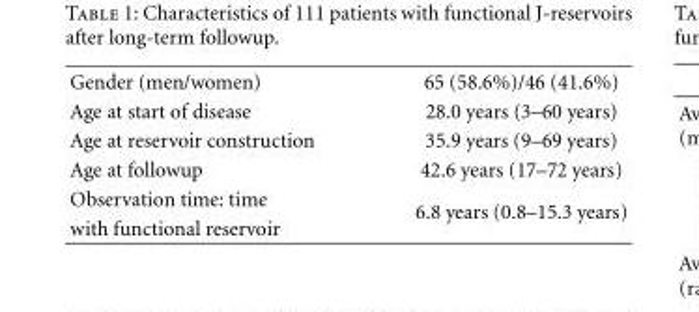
<table><tbody><tr><td>Gender (men/women)</td><td>65 (58.6%)/46 (41.6%)</td></tr><tr><td>Age at start of disease</td><td>28.0 years (3–60 years)</td></tr><tr><td>Age at reservoir construction</td><td>35.9 years (9–69 years)</td></tr><tr><td>Age at followup</td><td>42.6 years (17–72 years)</td></tr><tr><td>Observation time: time</td><td rowspan="2">6.8 years (0.8–15.3 years)</td></tr><tr><td>with functional reservoir</td></tr></tbody></table>